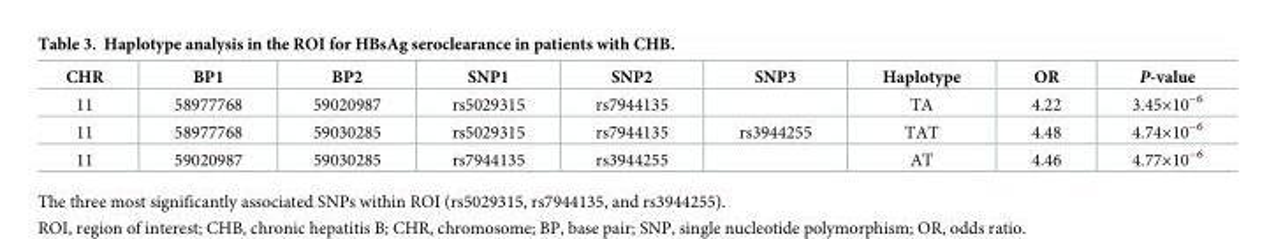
<table><thead><tr><td>CHR</td><td>BP1</td><td>BP2</td><td>SNP1</td><td>SNP2</td><td>SNP3</td><td>Haplotype</td><td>OR</td><td>P-value</td></tr></thead><tbody><tr><td>11</td><td>58977768</td><td>59020987</td><td>rs5029315</td><td>rs7944135</td><td></td><td>TA</td><td>4.22</td><td>3.45×10<sup>−6</sup></td></tr><tr><td>11</td><td>58977768</td><td>59030285</td><td>rs5029315</td><td>rs7944135</td><td>rs3944255</td><td>TAT</td><td>4.48</td><td>4.74×10<sup>−6</sup></td></tr><tr><td>11</td><td>59020987</td><td>59030285</td><td>rs7944135</td><td>rs3944255</td><td></td><td>AT</td><td>4.46</td><td>4.77×10<sup>−6</sup></td></tr></tbody></table>